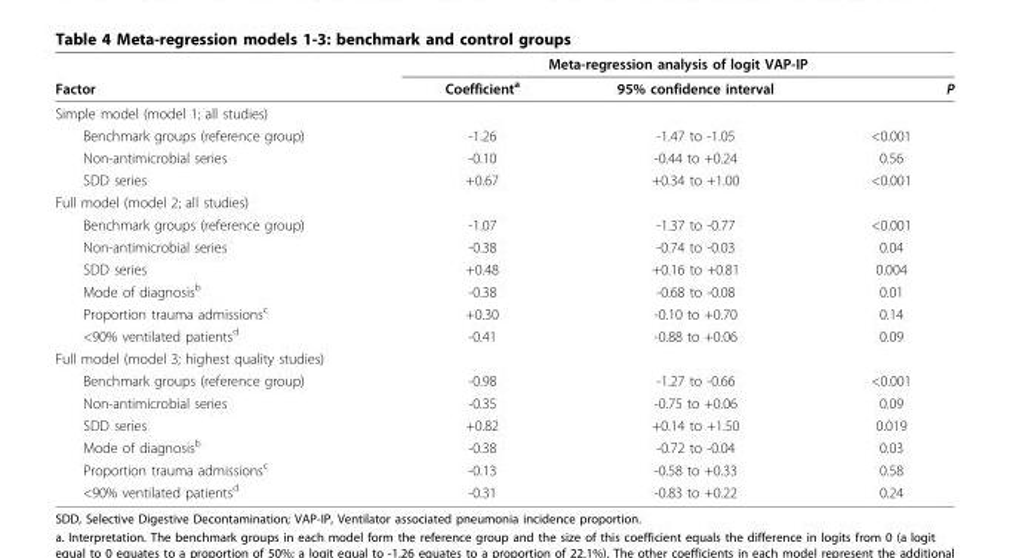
<table><thead><tr><td rowspan="2">Factor</td><td colspan="3">Meta-regression analysis of logit VAP-IP</td></tr><tr><td>Coefficient<sup>a</sup></td><td>95% confidence interval</td><td>P</td></tr></thead><tbody><tr><td colspan="4">Simple model (model 1; all studies)</td></tr><tr><td>Benchmark groups (reference group)</td><td>-1.26</td><td>-1.47 to -1.05</td><td>&lt;0.001</td></tr><tr><td>Non-antimicrobial series</td><td>-0.10</td><td>-0.44 to +0.24</td><td>0.56</td></tr><tr><td>SDD series</td><td>+0.67</td><td>+0.34 to +1.00</td><td>&lt;0.001</td></tr><tr><td colspan="4">Full model (model 2; all studies)</td></tr><tr><td>Benchmark groups (reference group)</td><td>-1.07</td><td>-1.37 to -0.77</td><td>&lt;0.001</td></tr><tr><td>Non-antimicrobial series</td><td>-0.38</td><td>-0.74 to -0.03</td><td>0.04</td></tr><tr><td>SDD series</td><td>+0.48</td><td>+0.16 to +0.81</td><td>0.004</td></tr><tr><td>Mode of diagnosis<sup>b</sup></td><td>-0.38</td><td>-0.68 to -0.08</td><td>0.01</td></tr><tr><td>Proportion trauma admissions<sup>c</sup></td><td>+0.30</td><td>-0.10 to +0.70</td><td>0.14</td></tr><tr><td>&lt;90% ventilated patients<sup>d</sup></td><td>-0.41</td><td>-0.88 to +0.06</td><td>0.09</td></tr><tr><td colspan="4">Full model (model 3; highest quality studies)</td></tr><tr><td>Benchmark groups (reference group)</td><td>-0.98</td><td>-1.27 to -0.66</td><td>&lt;0.001</td></tr><tr><td>Non-antimicrobial series</td><td>-0.35</td><td>-0.75 to +0.06</td><td>0.09</td></tr><tr><td>SDD series</td><td>+0.82</td><td>+0.14 to +1.50</td><td>0.019</td></tr><tr><td>Mode of diagnosis<sup>b</sup></td><td>-0.38</td><td>-0.72 to -0.04</td><td>0.03</td></tr><tr><td>Proportion trauma admissions<sup>c</sup></td><td>-0.13</td><td>-0.58 to +0.33</td><td>0.58</td></tr><tr><td>&lt;90% ventilated patients<sup>d</sup></td><td>-0.31</td><td>-0.83 to +0.22</td><td>0.24</td></tr></tbody></table>